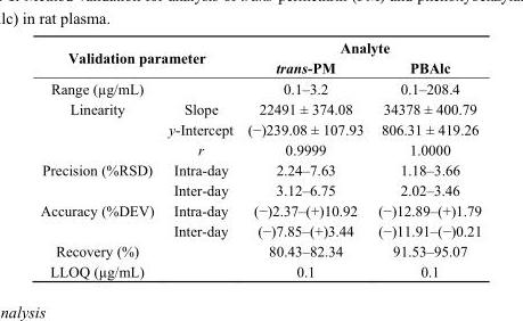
<table><thead><tr><td rowspan="2" colspan="2">Validation parameter</td><td colspan="2">Analyte</td></tr><tr><td rowspan="2">trans-PM 0.1–3.2</td><td rowspan="2">PBAlc 0.1–208.4</td></tr><tr><td>Range (µg/mL)</td><td></td></tr></thead><tbody><tr><td rowspan="3">Linearity</td><td>Slope</td><td>22491 ± 374.08</td><td>34378 ± 400.79</td></tr><tr><td>y-Intercept</td><td>(−)239.08 ± 107.93</td><td>806.31 ± 419.26</td></tr><tr><td>r</td><td>0.9999</td><td>1.0000</td></tr><tr><td rowspan="2">Precision (%RSD)</td><td>Intra-day</td><td>2.24–7.63</td><td>1.18–3.66</td></tr><tr><td>Inter-day</td><td>3.12–6.75</td><td>2.02–3.46</td></tr><tr><td rowspan="2">Accuracy (%DEV)</td><td>Intra-day</td><td>(−)2.37–(+)10.92</td><td>(−)12.89–(+)1.79</td></tr><tr><td>Inter-day</td><td>(−)7.85–(+)3.44</td><td>(−)11.91–(−)0.21</td></tr><tr><td>Recovery (%)</td><td></td><td>80.43–82.34</td><td>91.53–95.07</td></tr><tr><td>LLOQ (µg/mL)</td><td></td><td>0.1</td><td>0.1</td></tr></tbody></table>